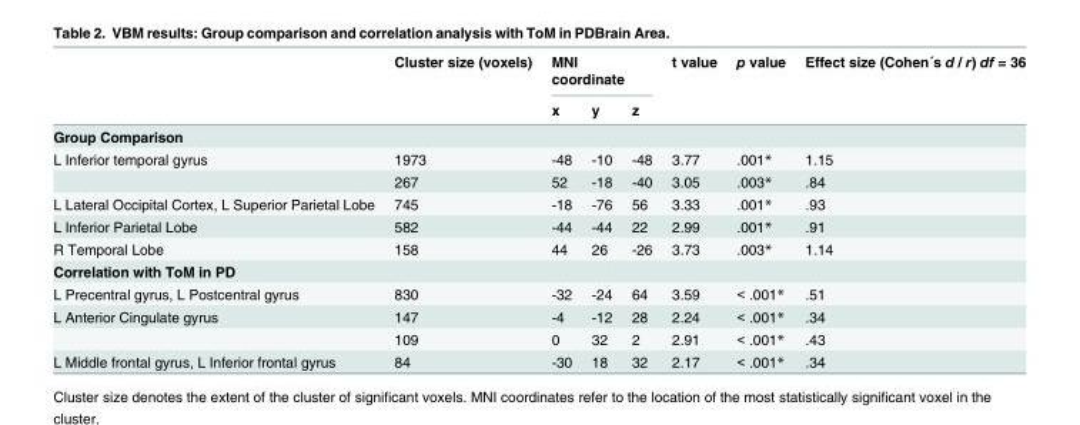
<table><thead><tr><td rowspan="2"></td><td rowspan="2">Cluster size (voxels)</td><td colspan="3">MNI coordinate</td><td rowspan="2">t value</td><td rowspan="2">p value</td><td rowspan="2">Effect size (Cohen´s d / r) df = 36</td></tr><tr><td>x</td><td>y</td><td>z</td></tr></thead><tbody><tr><td colspan="8">Group Comparison</td></tr><tr><td rowspan="2">L Inferior temporal gyrus</td><td>1973</td><td>-48</td><td>-10</td><td>-48</td><td>3.77</td><td>.001*</td><td>1.15</td></tr><tr><td>267</td><td>52</td><td>-18</td><td>-40</td><td>3.05</td><td>.003*</td><td>.84</td></tr><tr><td>L Lateral Occipital Cortex, L Superior Parietal Lobe</td><td>745</td><td>-18</td><td>-76</td><td>56</td><td>3.33</td><td>.001*</td><td>.93</td></tr><tr><td>L Inferior Parietal Lobe</td><td>582</td><td>-44</td><td>-44</td><td>22</td><td>2.99</td><td>.001*</td><td>.91</td></tr><tr><td>R Temporal Lobe</td><td>158</td><td>44</td><td>26</td><td>-26</td><td>3.73</td><td>.003*</td><td>1.14</td></tr><tr><td colspan="8">Correlation with ToM in PD</td></tr><tr><td>L Precentral gyrus, L Postcentral gyrus</td><td>830</td><td>-32</td><td>-24</td><td>64</td><td>3.59</td><td>&lt; .001*</td><td>.51</td></tr><tr><td rowspan="2">L Anterior Cingulate gyrus</td><td>147</td><td>-4</td><td>-12</td><td>28</td><td>2.24</td><td>&lt; .001*</td><td>.34</td></tr><tr><td>109</td><td>0</td><td>32</td><td>2</td><td>2.91</td><td>&lt; .001*</td><td>.43</td></tr><tr><td>L Middle frontal gyrus, L Inferior frontal gyrus</td><td>84</td><td>-30</td><td>18</td><td>32</td><td>2.17</td><td>&lt; .001*</td><td>.34</td></tr></tbody></table>